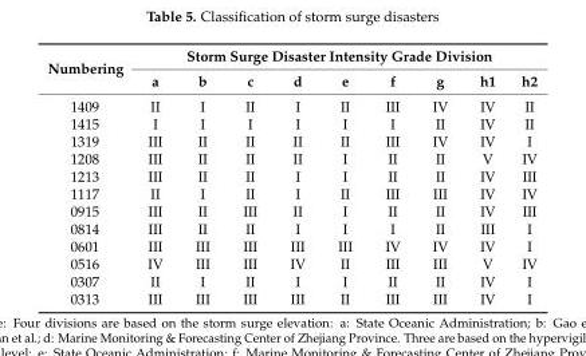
<table><thead><tr><td rowspan="2">Numbering</td><td colspan="9">Storm Surge Disaster Intensity Grade Division</td></tr><tr><td>a</td><td>b</td><td>c</td><td>d</td><td>e</td><td>f</td><td>g</td><td>h1</td><td>h2</td></tr></thead><tbody><tr><td>1409</td><td>II</td><td>I</td><td>II</td><td>I</td><td>II</td><td>III</td><td>IV</td><td>IV</td><td>II</td></tr><tr><td>1415</td><td>I</td><td>I</td><td>I</td><td>I</td><td>I</td><td>I</td><td>II</td><td>IV</td><td>II</td></tr><tr><td>1319</td><td>III</td><td>II</td><td>II</td><td>II</td><td>II</td><td>III</td><td>IV</td><td>IV</td><td>I</td></tr><tr><td>1208</td><td>III</td><td>II</td><td>II</td><td>II</td><td>I</td><td>II</td><td>II</td><td>V</td><td>IV</td></tr><tr><td>1213</td><td>III</td><td>II</td><td>II</td><td>I</td><td>I</td><td>II</td><td>II</td><td>IV</td><td>III</td></tr><tr><td>1117</td><td>II</td><td>I</td><td>II</td><td>I</td><td>II</td><td>III</td><td>III</td><td>IV</td><td>IV</td></tr><tr><td>0915</td><td>III</td><td>II</td><td>III</td><td>II</td><td>I</td><td>II</td><td>II</td><td>IV</td><td>III</td></tr><tr><td>0814</td><td>III</td><td>II</td><td>II</td><td>I</td><td>I</td><td>I</td><td>II</td><td>III</td><td>I</td></tr><tr><td>0601</td><td>III</td><td>III</td><td>III</td><td>III</td><td>III</td><td>IV</td><td>IV</td><td>IV</td><td>I</td></tr><tr><td>0516</td><td>IV</td><td>III</td><td>III</td><td>IV</td><td>II</td><td>III</td><td>III</td><td>V</td><td>IV</td></tr><tr><td>0307</td><td>II</td><td>I</td><td>II</td><td>I</td><td>I</td><td>II</td><td>II</td><td>IV</td><td>I</td></tr><tr><td>0313</td><td>III</td><td>III</td><td>III</td><td>III</td><td>II</td><td>III</td><td>III</td><td>IV</td><td>I</td></tr></tbody></table>